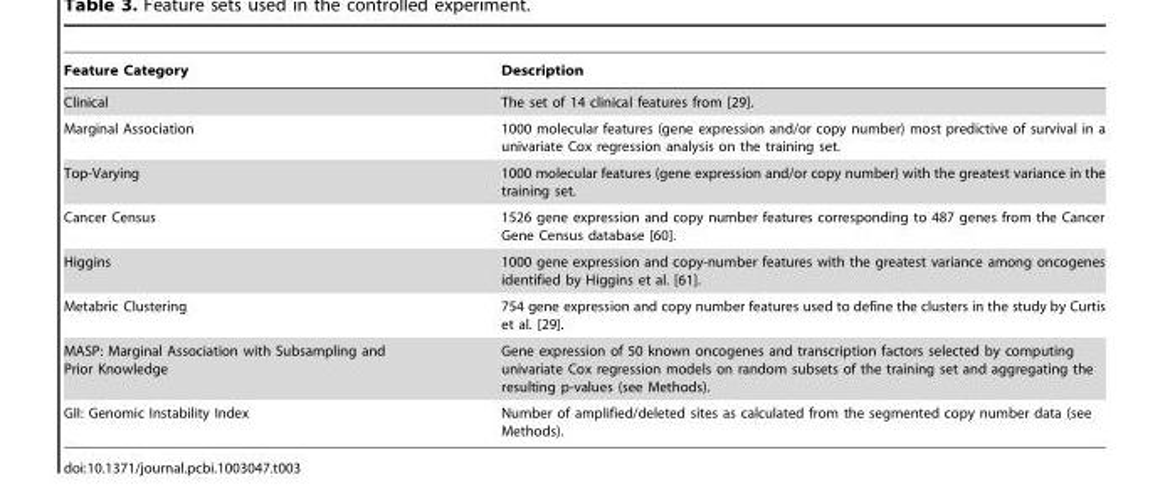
<table><thead><tr><td>Feature Category</td><td>Description</td></tr></thead><tbody><tr><td>Clinical</td><td>The set of 14 clinical features from [29].</td></tr><tr><td>Marginal Association</td><td>1000 molecular features (gene expression and/or copy number) most predictive of survival in a univariate Cox regression analysis on the training set.</td></tr><tr><td>Top-Varying</td><td>1000 molecular features (gene expression and/or copy number) with the greatest variance in the training set.</td></tr><tr><td>Cancer Census</td><td>1526 gene expression and copy number features corresponding to 487 genes from the Cancer Gene Census database [60].</td></tr><tr><td>Higgins</td><td>1000 gene expression and copy-number features with the greatest variance among oncogenes identified by Higgins et al. [61].</td></tr><tr><td>Metabric Clustering</td><td>754 gene expression and copy number features used to define the clusters in the study by Curtis et al. [29].</td></tr><tr><td>MASP: Marginal Association with Subsampling and Prior Knowledge</td><td>Gene expression of 50 known oncogenes and transcription factors selected by computing univariate Cox regression models on random subsets of the training set and aggregating the resulting p-values (see Methods).</td></tr><tr><td>GII: Genomic Instability Index</td><td>Number of amplified/deleted sites as calculated from the segmented copy number data (see Methods).</td></tr></tbody></table>